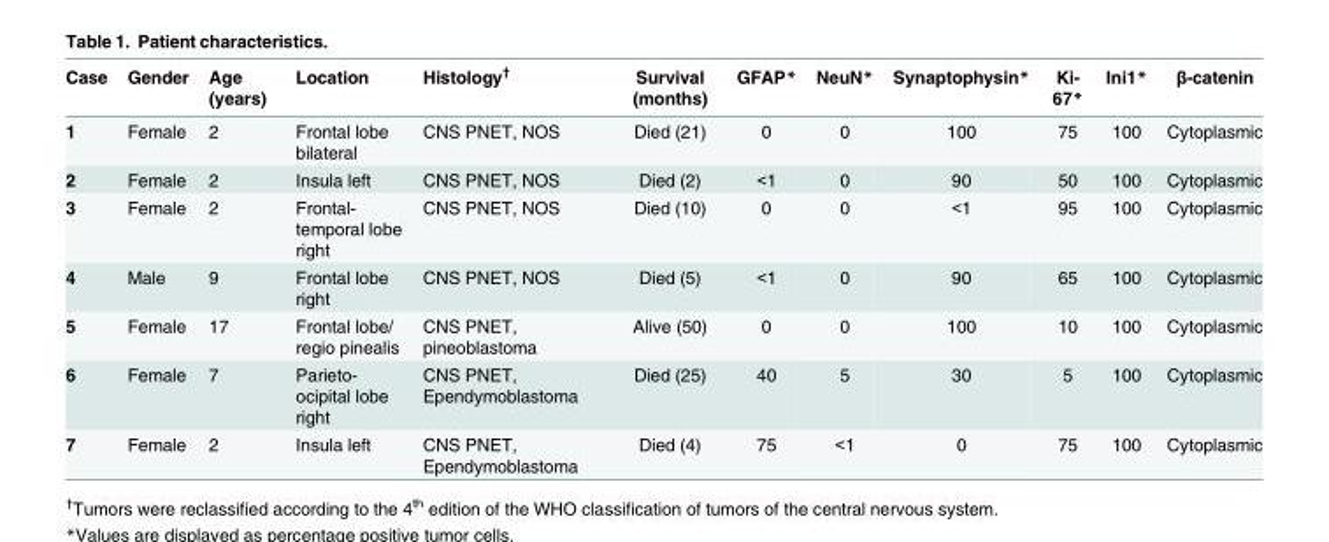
<table><thead><tr><td>Case</td><td>Gender</td><td>Age (years)</td><td>Location</td><td>Histology<sup>†</sup></td><td>Survival (months)</td><td>GFAP*</td><td>NeuN*</td><td>Synaptophysin*</td><td>Ki- 67*</td><td>Ini1*</td><td>β-catenin</td></tr></thead><tbody><tr><td>1</td><td>Female</td><td>2</td><td>Frontal lobe bilateral</td><td>CNS PNET, NOS</td><td>Died (21)</td><td>0</td><td>0</td><td>100</td><td>75</td><td>100</td><td>Cytoplasmic</td></tr><tr><td>2</td><td>Female</td><td>2</td><td>Insula left</td><td>CNS PNET, NOS</td><td>Died (2)</td><td>&lt;1</td><td>0</td><td>90</td><td>50</td><td>100</td><td>Cytoplasmic</td></tr><tr><td>3</td><td>Female</td><td>2</td><td>Frontal- temporal lobe right</td><td>CNS PNET, NOS</td><td>Died (10)</td><td>0</td><td>0</td><td>&lt;1</td><td>95</td><td>100</td><td>Cytoplasmic</td></tr><tr><td>4</td><td>Male</td><td>9</td><td>Frontal lobe right</td><td>CNS PNET, NOS</td><td>Died (5)</td><td>&lt;1</td><td>0</td><td>90</td><td>65</td><td>100</td><td>Cytoplasmic</td></tr><tr><td>5</td><td>Female</td><td>17</td><td>Frontal lobe/ regio pinealis</td><td>CNS PNET, pineoblastoma</td><td>Alive (50)</td><td>0</td><td>0</td><td>100</td><td>10</td><td>100</td><td>Cytoplasmic</td></tr><tr><td>6</td><td>Female</td><td>7</td><td>Parieto- ocipital lobe right</td><td>CNS PNET, Ependymoblastoma</td><td>Died (25)</td><td>40</td><td>5</td><td>30</td><td>5</td><td>100</td><td>Cytoplasmic</td></tr><tr><td>7</td><td>Female</td><td>2</td><td>Insula left</td><td>CNS PNET, Ependymoblastoma</td><td>Died (4)</td><td>75</td><td>&lt;1</td><td>0</td><td>75</td><td>100</td><td>Cytoplasmic</td></tr></tbody></table>